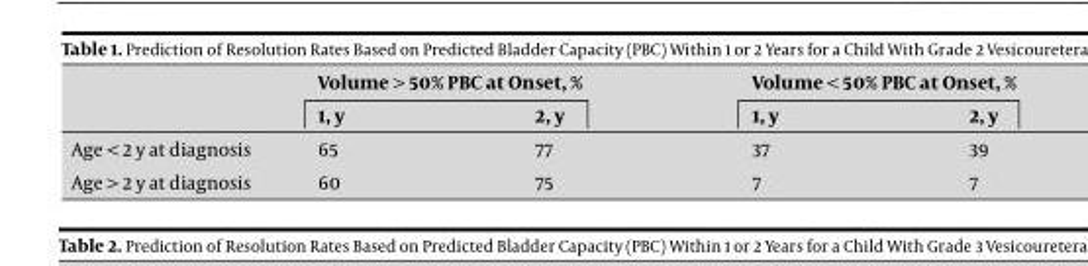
<table><thead><tr><td rowspan="2"></td><td colspan="2">Volume &gt; 50% PBC at Onset, %</td><td colspan="2">Volume &lt; 50% PBC at Onset, %</td></tr><tr><td>1, y</td><td>2, y</td><td>1, y</td><td>2, y</td></tr></thead><tbody><tr><td>Age &lt; 2 y at diagnosis</td><td>65</td><td>77</td><td>37</td><td>39</td></tr><tr><td>Age &gt; 2 y at diagnosis</td><td>60</td><td>75</td><td>7</td><td>7</td></tr></tbody></table>